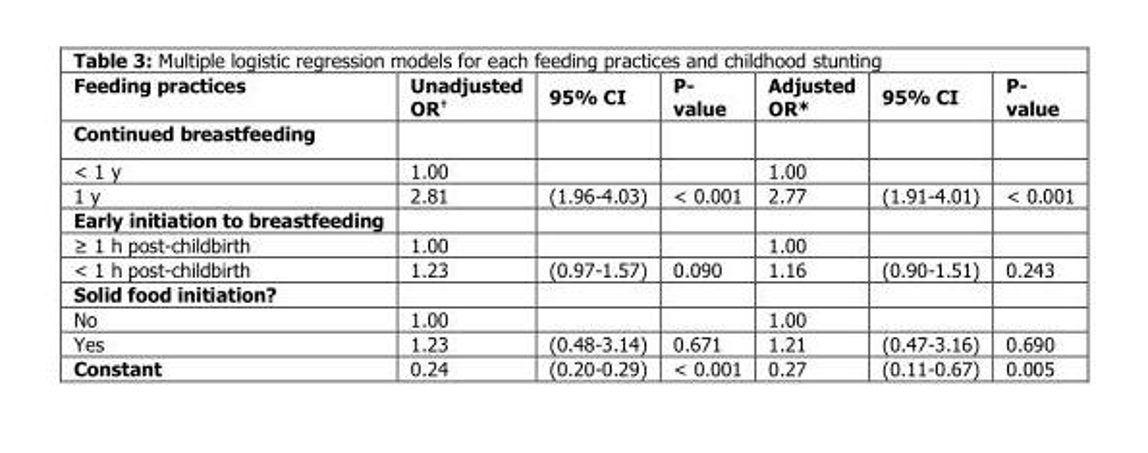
<table><thead><tr><td>Feeding practices</td><td>Unadjusted OR<sup>†</sup></td><td>95% CI</td><td>P- value</td><td>Adjusted OR*</td><td>95% CI</td><td>P- value</td></tr></thead><tbody><tr><td colspan="7">Continued breastfeeding</td></tr><tr><td>&lt; 1 y</td><td>1.00</td><td></td><td></td><td>1.00</td><td></td><td></td></tr><tr><td>1 y</td><td>2.81</td><td>(1.96-4.03)</td><td>&lt; 0.001</td><td>2.77</td><td>(1.91-4.01)</td><td>&lt; 0.001</td></tr><tr><td colspan="7">Early initiation to breastfeeding</td></tr><tr><td>≥ 1 h post-childbirth</td><td>1.00</td><td></td><td></td><td>1.00</td><td></td><td></td></tr><tr><td>&lt; 1 h post-childbirth</td><td>1.23</td><td>(0.97-1.57)</td><td>0.090</td><td>1.16</td><td>(0.90-1.51)</td><td>0.243</td></tr><tr><td colspan="7">Solid food initiation?</td></tr><tr><td>No</td><td>1.00</td><td></td><td></td><td>1.00</td><td></td><td></td></tr><tr><td>Yes</td><td>1.23</td><td>(0.48-3.14)</td><td>0.671</td><td>1.21</td><td>(0.47-3.16)</td><td>0.690</td></tr><tr><td>Constant</td><td>0.24</td><td>(0.20-0.29)</td><td>&lt; 0.001</td><td>0.27</td><td>(0.11-0.67)</td><td>0.005</td></tr></tbody></table>